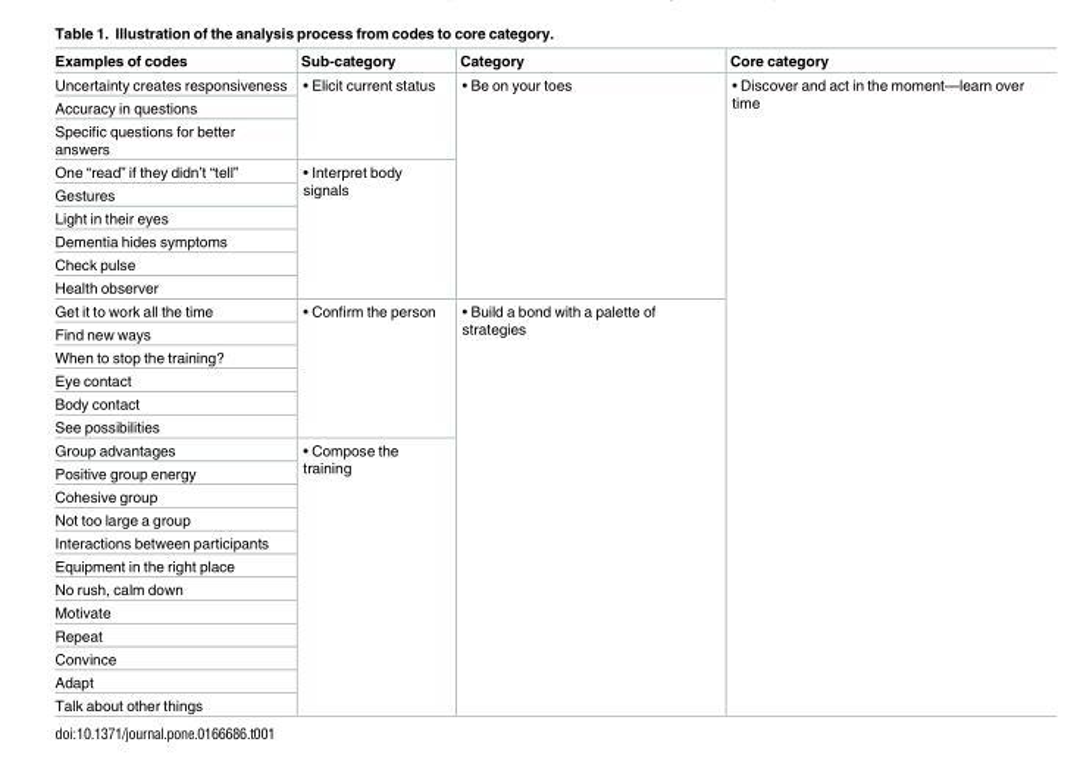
<table><thead><tr><td>Examples of codes</td><td>Sub-category</td><td>Category</td><td>Core category</td></tr></thead><tbody><tr><td>Uncertainty creates responsiveness</td><td rowspan="3">• Elicit current status</td><td rowspan="9">• Be on your toes</td><td rowspan="27">• Discover and act in the moment—learn over time</td></tr><tr><td>Accuracy in questions</td></tr><tr><td>Specific questions for better answers</td></tr><tr><td>One “read” if they didn’t “tell”</td><td rowspan="6">• Interpret body signals</td></tr><tr><td>Gestures</td></tr><tr><td>Light in their eyes</td></tr><tr><td>Dementia hides symptoms</td></tr><tr><td>Check pulse</td></tr><tr><td>Health observer</td></tr><tr><td>Get it to work all the time</td><td rowspan="6">• Confirm the person</td><td rowspan="18">• Build a bond with a palette of strategies</td></tr><tr><td>Find new ways</td></tr><tr><td>When to stop the training?</td></tr><tr><td>Eye contact</td></tr><tr><td>Body contact</td></tr><tr><td>See possibilities</td></tr><tr><td>Group advantages</td><td rowspan="12">• Compose the training</td></tr><tr><td>Positive group energy</td></tr><tr><td>Cohesive group</td></tr><tr><td>Not too large a group</td></tr><tr><td>Interactions between participants</td></tr><tr><td>Equipment in the right place</td></tr><tr><td>No rush, calm down</td></tr><tr><td>Motivate</td></tr><tr><td>Repeat</td></tr><tr><td>Convince</td></tr><tr><td>Adapt</td></tr><tr><td>Talk about other things</td></tr></tbody></table>